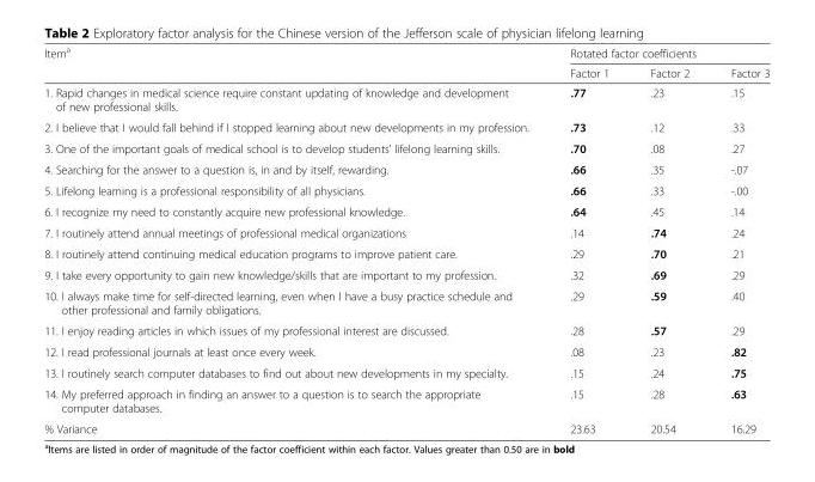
<table><thead><tr><td rowspan="2">Item<sup>a</sup></td><td colspan="3">Rotated factor coefficients</td></tr><tr><td>Factor 1</td><td>Factor 2</td><td>Factor 3</td></tr></thead><tbody><tr><td>1. Rapid changes in medical science require constant updating of knowledge and development of new professional skills.</td><td>.77</td><td>.23</td><td>.15</td></tr><tr><td>2. I believe that I would fall behind if I stopped learning about new developments in my profession.</td><td>.73</td><td>.12</td><td>.33</td></tr><tr><td>3. One of the important goals of medical school is to develop students’ lifelong learning skills.</td><td>.70</td><td>.08</td><td>.27</td></tr><tr><td>4. Searching for the answer to a question is, in and by itself, rewarding.</td><td>.66</td><td>.35</td><td>-.07</td></tr><tr><td>5. Lifelong learning is a professional responsibility of all physicians.</td><td>.66</td><td>.33</td><td>-.00</td></tr><tr><td>6. I recognize my need to constantly acquire new professional knowledge.</td><td>.64</td><td>.45</td><td>.14</td></tr><tr><td>7. I routinely attend annual meetings of professional medical organizations</td><td>.14</td><td>.74</td><td>.24</td></tr><tr><td>8. I routinely attend continuing medical education programs to improve patient care.</td><td>.29</td><td>.70</td><td>.21</td></tr><tr><td>9. I take every opportunity to gain new knowledge/skills that are important to my profession.</td><td>.32</td><td>.69</td><td>.29</td></tr><tr><td>10. I always make time for self-directed learning, even when I have a busy practice schedule and other professional and family obligations.</td><td>.29</td><td>.59</td><td>.40</td></tr><tr><td>11. I enjoy reading articles in which issues of my professional interest are discussed.</td><td>.28</td><td>.57</td><td>.29</td></tr><tr><td>12. I read professional journals at least once every week.</td><td>.08</td><td>.23</td><td>.82</td></tr><tr><td>13. I routinely search computer databases to find out about new developments in my specialty.</td><td>.15</td><td>.24</td><td>.75</td></tr><tr><td>14. My preferred approach in finding an answer to a question is to search the appropriate computer databases.</td><td>.15</td><td>.28</td><td>.63</td></tr><tr><td>% Variance</td><td>23.63</td><td>20.54</td><td>16.29</td></tr></tbody></table>